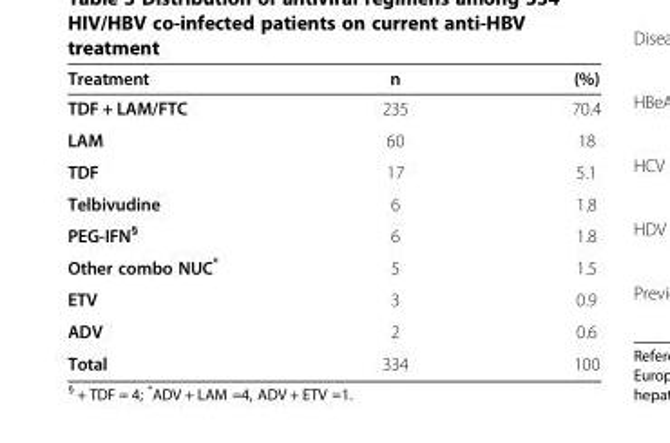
<table><thead><tr><td>Treatment</td><td>n</td><td>(%)</td></tr></thead><tbody><tr><td>TDF + LAM/FTC</td><td>235</td><td>70.4</td></tr><tr><td>LAM</td><td>60</td><td>18</td></tr><tr><td>TDF</td><td>17</td><td>5.1</td></tr><tr><td>Telbivudine</td><td>6</td><td>1.8</td></tr><tr><td>PEG-IFN<sup>§</sup></td><td>6</td><td>1.8</td></tr><tr><td>Other combo NUC*</td><td>5</td><td>1.5</td></tr><tr><td>ETV</td><td>3</td><td>0.9</td></tr><tr><td>ADV</td><td>2</td><td>0.6</td></tr><tr><td>Total</td><td>334</td><td>100</td></tr></tbody></table>